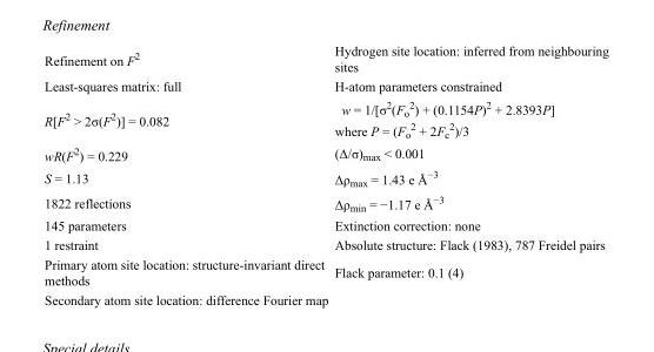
<table><tbody><tr><td>Refinement on F<sup>2</sup></td><td>Hydrogen site location: inferred from neighbouring sites</td></tr><tr><td>Least-squares matrix: full</td><td>H-atom parameters constrained</td></tr><tr><td>R[F<sup>2</sup> &gt; 2σ(F<sup>2</sup>)] = 0.082</td><td>w = 1/[σ<sup>2</sup>(F<sub>o</sub> <sup>2</sup>) + (0.1154P)<sup>2</sup> + 2.8393P] where P = (F<sub>o</sub> <sup>2</sup> + 2F<sub>c</sub> <sup>2</sup>)/3</td></tr><tr><td>wR(F<sup>2</sup>) = 0.229</td><td>(Δ/σ)<sub>max</sub> &lt; 0.001</td></tr><tr><td>S = 1.13</td><td>Δρ<sub>max</sub> = 1.43 e Å<sup>−3</sup></td></tr><tr><td>1822 reflections</td><td>Δρ<sub>min</sub> = −1.17 e Å<sup>−3</sup></td></tr><tr><td>145 parameters</td><td>Extinction correction: none</td></tr><tr><td>1 restraint</td><td>Absolute structure: Flack (1983), 787 Freidel pairs</td></tr><tr><td>Primary atom site location: structure-invariant direct methods</td><td>Flack parameter: 0.1 (4)</td></tr><tr><td>Secondary atom site location: difference Fourier map</td><td></td></tr></tbody></table>